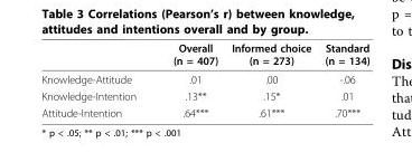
<table><thead><tr><td></td><td>Overall (n = 407)</td><td>Informed choice (n = 273)</td><td>Standard (n = 134)</td></tr></thead><tbody><tr><td>Knowledge-Attitude</td><td>.01</td><td>.00</td><td>-.06</td></tr><tr><td>Knowledge-Intention</td><td>.13**</td><td>.15*</td><td>.01</td></tr><tr><td>Attitude-Intention</td><td>.64***</td><td>.61***</td><td>.70***</td></tr></tbody></table>